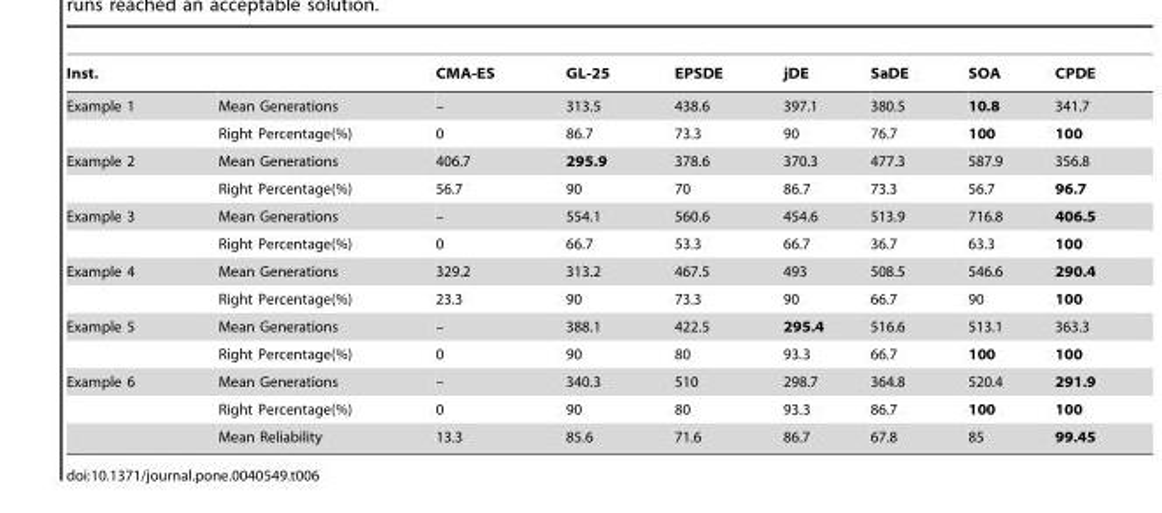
<table><thead><tr><td>Inst.</td><td></td><td>CMA-ES</td><td>GL-25</td><td>EPSDE</td><td>jDE</td><td>SaDE</td><td>SOA</td><td>CPDE</td></tr></thead><tbody><tr><td rowspan="2">Example 1</td><td>Mean Generations</td><td>–</td><td>313.5</td><td>438.6</td><td>397.1</td><td>380.5</td><td>10.8</td><td>341.7</td></tr><tr><td>Right Percentage(%)</td><td>0</td><td>86.7</td><td>73.3</td><td>90</td><td>76.7</td><td>100</td><td>100</td></tr><tr><td rowspan="2">Example 2</td><td>Mean Generations</td><td>406.7</td><td>295.9</td><td>378.6</td><td>370.3</td><td>477.3</td><td>587.9</td><td>356.8</td></tr><tr><td>Right Percentage(%)</td><td>56.7</td><td>90</td><td>70</td><td>86.7</td><td>73.3</td><td>56.7</td><td>96.7</td></tr><tr><td rowspan="2">Example 3</td><td>Mean Generations</td><td>–</td><td>554.1</td><td>560.6</td><td>454.6</td><td>513.9</td><td>716.8</td><td>406.5</td></tr><tr><td>Right Percentage(%)</td><td>0</td><td>66.7</td><td>53.3</td><td>66.7</td><td>36.7</td><td>63.3</td><td>100</td></tr><tr><td rowspan="2">Example 4</td><td>Mean Generations</td><td>329.2</td><td>313.2</td><td>467.5</td><td>493</td><td>508.5</td><td>546.6</td><td>290.4</td></tr><tr><td>Right Percentage(%)</td><td>23.3</td><td>90</td><td>73.3</td><td>90</td><td>66.7</td><td>90</td><td>100</td></tr><tr><td rowspan="2">Example 5</td><td>Mean Generations</td><td>–</td><td>388.1</td><td>422.5</td><td>295.4</td><td>516.6</td><td>513.1</td><td>363.3</td></tr><tr><td>Right Percentage(%)</td><td>0</td><td>90</td><td>80</td><td>93.3</td><td>66.7</td><td>100</td><td>100</td></tr><tr><td rowspan="3">Example 6</td><td>Mean Generations</td><td>–</td><td>340.3</td><td>510</td><td>298.7</td><td>364.8</td><td>520.4</td><td>291.9</td></tr><tr><td>Right Percentage(%)</td><td>0</td><td>90</td><td>80</td><td>93.3</td><td>86.7</td><td>100</td><td>100</td></tr><tr><td>Mean Reliability</td><td>13.3</td><td>85.6</td><td>71.6</td><td>86.7</td><td>67.8</td><td>85</td><td>99.45</td></tr></tbody></table>